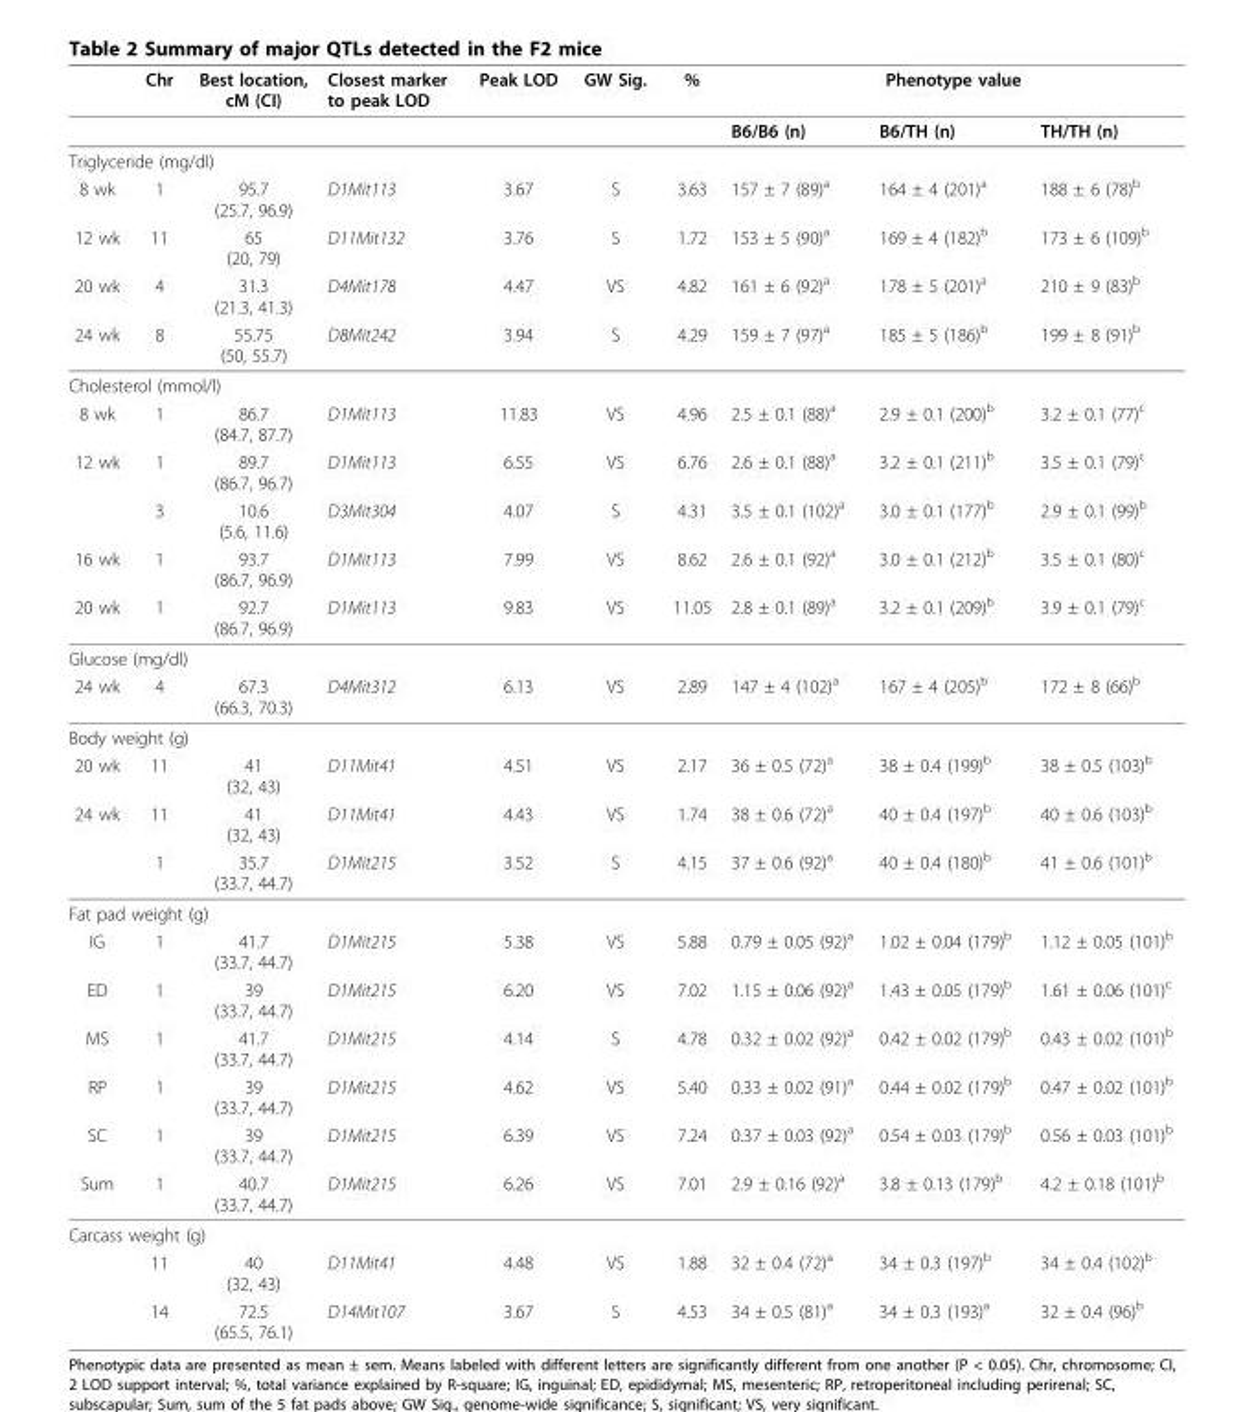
<table><thead><tr><td></td><td>Chr</td><td>Best location, cM (CI)</td><td>Closest marker to peak LOD</td><td>Peak LOD</td><td>GW Sig.</td><td>%</td><td></td><td>Phenotype value</td><td></td></tr></thead><tbody><tr><td></td><td></td><td></td><td></td><td></td><td></td><td></td><td>B6/B6 (n)</td><td>B6/TH (n)</td><td>TH/TH (n)</td></tr><tr><td colspan="10">Triglyceride (mg/dl)</td></tr><tr><td>8 wk</td><td>1</td><td>95.7 (25.7, 96.9)</td><td>D1Mit113</td><td>3.67</td><td>S</td><td>3.63</td><td>157 ± 7 (89)<sup>a</sup></td><td>164 ± 4 (201)<sup>a</sup></td><td>188 ± 6 (78)<sup>b</sup></td></tr><tr><td>12 wk</td><td>11</td><td>65 (20, 79)</td><td>D11Mit132</td><td>3.76</td><td>S</td><td>1.72</td><td>153 ± 5 (90)<sup>a</sup></td><td>169 ± 4 (182)<sup>b</sup></td><td>173 ± 6 (109)<sup>b</sup></td></tr><tr><td>20 wk</td><td>4</td><td>31.3 (21.3, 41.3)</td><td>D4Mit178</td><td>4.47</td><td>VS</td><td>4.82</td><td>161 ± 6 (92)<sup>a</sup></td><td>178 ± 5 (201)<sup>a</sup></td><td>210 ± 9 (83)<sup>b</sup></td></tr><tr><td>24 wk</td><td>8</td><td>55.75 (50, 55.7)</td><td>D8Mit242</td><td>3.94</td><td>S</td><td>4.29</td><td>159 ± 7 (97)<sup>a</sup></td><td>185 ± 5 (186)<sup>b</sup></td><td>199 ± 8 (91)<sup>b</sup></td></tr><tr><td colspan="10">Cholesterol (mmol/l)</td></tr><tr><td>8 wk</td><td>1</td><td>86.7 (84.7, 87.7)</td><td>D1Mit113</td><td>11.83</td><td>VS</td><td>4.96</td><td>2.5 ± 0.1 (88)<sup>a</sup></td><td>2.9 ± 0.1 (200)<sup>b</sup></td><td>3.2 ± 0.1 (77)<sup>c</sup></td></tr><tr><td rowspan="2">12 wk</td><td>1</td><td>89.7 (86.7, 96.7)</td><td>D1Mit113</td><td>6.55</td><td>VS</td><td>6.76</td><td>2.6 ± 0.1 (88)<sup>a</sup></td><td>3.2 ± 0.1 (211)<sup>b</sup></td><td>3.5 ± 0.1 (79)<sup>c</sup></td></tr><tr><td>3</td><td>10.6 (5.6, 11.6)</td><td>D3Mit304</td><td>4.07</td><td>S</td><td>4.31</td><td>3.5 ± 0.1 (102)<sup>a</sup></td><td>3.0 ± 0.1 (177)<sup>b</sup></td><td>2.9 ± 0.1 (99)<sup>b</sup></td></tr><tr><td>16 wk</td><td>1</td><td>93.7 (86.7, 96.9)</td><td>D1Mit113</td><td>7.99</td><td>VS</td><td>8.62</td><td>2.6 ± 0.1 (92)<sup>a</sup></td><td>3.0 ± 0.1 (212)<sup>b</sup></td><td>3.5 ± 0.1 (80)<sup>c</sup></td></tr><tr><td>20 wk</td><td>1</td><td>92.7 (86.7, 96.9)</td><td>D1Mit113</td><td>9.83</td><td>VS</td><td>11.05</td><td>2.8 ± 0.1 (89)<sup>a</sup></td><td>3.2 ± 0.1 (209)<sup>b</sup></td><td>3.9 ± 0.1 (79)<sup>c</sup></td></tr><tr><td colspan="10">Glucose (mg/dl)</td></tr><tr><td>24 wk</td><td>4</td><td>67.3 (66.3, 70.3)</td><td>D4Mit312</td><td>6.13</td><td>VS</td><td>2.89</td><td>147 ± 4 (102)<sup>a</sup></td><td>167 ± 4 (205)<sup>b</sup></td><td>172 ± 8 (66)<sup>b</sup></td></tr><tr><td colspan="10">Body weight (g)</td></tr><tr><td>20 wk</td><td>11</td><td>41 (32, 43)</td><td>D11Mit41</td><td>4.51</td><td>VS</td><td>2.17</td><td>36 ± 0.5 (72)<sup>a</sup></td><td>38 ± 0.4 (199)<sup>b</sup></td><td>38 ± 0.5 (103)<sup>b</sup></td></tr><tr><td rowspan="2">24 wk</td><td>11</td><td>41 (32, 43)</td><td>D11Mit41</td><td>4.43</td><td>VS</td><td>1.74</td><td>38 ± 0.6 (72)<sup>a</sup></td><td>40 ± 0.4 (197)<sup>b</sup></td><td>40 ± 0.6 (103)<sup>b</sup></td></tr><tr><td>1</td><td>35.7 (33.7, 44.7)</td><td>D1Mit215</td><td>3.52</td><td>S</td><td>4.15</td><td>37 ± 0.6 (92)<sup>a</sup></td><td>40 ± 0.4 (180)<sup>b</sup></td><td>41 ± 0.6 (101)<sup>b</sup></td></tr><tr><td colspan="10">Fat pad weight (g)</td></tr><tr><td>IG</td><td>1</td><td>41.7 (33.7, 44.7)</td><td>D1Mit215</td><td>5.38</td><td>VS</td><td>5.88</td><td>0.79 ± 0.05 (92)<sup>a</sup></td><td>1.02 ± 0.04 (179)<sup>b</sup></td><td>1.12 ± 0.05 (101)<sup>b</sup></td></tr><tr><td>ED</td><td>1</td><td>39 (33.7, 44.7)</td><td>D1Mit215</td><td>6.20</td><td>VS</td><td>7.02</td><td>1.15 ± 0.06 (92)<sup>a</sup></td><td>1.43 ± 0.05 (179)<sup>b</sup></td><td>1.61 ± 0.06 (101)<sup>c</sup></td></tr><tr><td>MS</td><td>1</td><td>41.7 (33.7, 44.7)</td><td>D1Mit215</td><td>4.14</td><td>S</td><td>4.78</td><td>0.32 ± 0.02 (92)<sup>a</sup></td><td>0.42 ± 0.02 (179)<sup>b</sup></td><td>0.43 ± 0.02 (101)<sup>b</sup></td></tr><tr><td>RP</td><td>1</td><td>39 (33.7, 44.7)</td><td>D1Mit215</td><td>4.62</td><td>VS</td><td>5.40</td><td>0.33 ± 0.02 (91)<sup>a</sup></td><td>0.44 ± 0.02 (179)<sup>b</sup></td><td>0.47 ± 0.02 (101)<sup>b</sup></td></tr><tr><td>SC</td><td>1</td><td>39 (33.7, 44.7)</td><td>D1Mit215</td><td>6.39</td><td>VS</td><td>7.24</td><td>0.37 ± 0.03 (92)<sup>a</sup></td><td>0.54 ± 0.03 (179)<sup>b</sup></td><td>0.56 ± 0.03 (101)<sup>b</sup></td></tr><tr><td>Sum</td><td>1</td><td>40.7 (33.7, 44.7)</td><td>D1Mit215</td><td>6.26</td><td>VS</td><td>7.01</td><td>2.9 ± 0.16 (92)<sup>a</sup></td><td>3.8 ± 0.13 (179)<sup>b</sup></td><td>4.2 ± 0.18 (101)<sup>b</sup></td></tr><tr><td colspan="10">Carcass weight (g)</td></tr><tr><td></td><td>11</td><td>40 (32, 43)</td><td>D11Mit41</td><td>4.48</td><td>VS</td><td>1.88</td><td>32 ± 0.4 (72)<sup>a</sup></td><td>34 ± 0.3 (197)<sup>b</sup></td><td>34 ± 0.4 (102)<sup>b</sup></td></tr><tr><td></td><td>14</td><td>72.5 (65.5, 76.1)</td><td>D14Mit107</td><td>3.67</td><td>S</td><td>4.53</td><td>34 ± 0.5 (81)<sup>a</sup></td><td>34 ± 0.3 (193)<sup>a</sup></td><td>32 ± 0.4 (96)<sup>b</sup></td></tr></tbody></table>